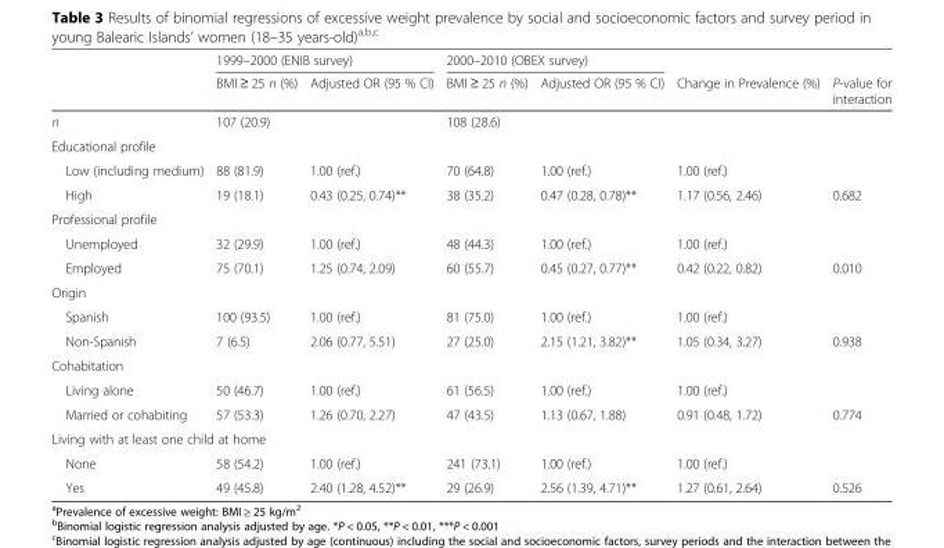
<table><thead><tr><td rowspan="2"></td><td colspan="2">1999–2000 (ENIB survey)</td><td colspan="2">2000–2010 (OBEX survey)</td><td rowspan="2">Change in Prevalence (%)</td><td rowspan="2">P-value for interaction</td></tr><tr><td>BMI ≥ 25 n (%)</td><td>Adjusted OR (95 % CI)</td><td>BMI ≥ 25 n (%)</td><td>Adjusted OR (95 % CI)</td></tr></thead><tbody><tr><td>n</td><td>107 (20.9)</td><td></td><td>108 (28.6)</td><td></td><td></td><td></td></tr><tr><td colspan="7">Educational profile</td></tr><tr><td>Low (including medium)</td><td>88 (81.9)</td><td>1.00 (ref.)</td><td>70 (64.8)</td><td>1.00 (ref.)</td><td>1.00 (ref.)</td><td></td></tr><tr><td>High</td><td>19 (18.1)</td><td>0.43 (0.25, 0.74)**</td><td>38 (35.2)</td><td>0.47 (0.28, 0.78)**</td><td>1.17 (0.56, 2.46)</td><td>0.682</td></tr><tr><td colspan="7">Professional profile</td></tr><tr><td>Unemployed</td><td>32 (29.9)</td><td>1.00 (ref.)</td><td>48 (44.3)</td><td>1.00 (ref.)</td><td>1.00 (ref.)</td><td></td></tr><tr><td>Employed</td><td>75 (70.1)</td><td>1.25 (0.74, 2.09)</td><td>60 (55.7)</td><td>0.45 (0.27, 0.77)**</td><td>0.42 (0.22, 0.82)</td><td>0.010</td></tr><tr><td colspan="7">Origin</td></tr><tr><td>Spanish</td><td>100 (93.5)</td><td>1.00 (ref.)</td><td>81 (75.0)</td><td>1.00 (ref.)</td><td>1.00 (ref.)</td><td></td></tr><tr><td>Non-Spanish</td><td>7 (6.5)</td><td>2.06 (0.77, 5.51)</td><td>27 (25.0)</td><td>2.15 (1.21, 3.82)**</td><td>1.05 (0.34, 3.27)</td><td>0.938</td></tr><tr><td colspan="7">Cohabitation</td></tr><tr><td>Living alone</td><td>50 (46.7)</td><td>1.00 (ref.)</td><td>61 (56.5)</td><td>1.00 (ref.)</td><td>1.00 (ref.)</td><td></td></tr><tr><td>Married or cohabiting</td><td>57 (53.3)</td><td>1.26 (0.70, 2.27)</td><td>47 (43.5)</td><td>1.13 (0.67, 1.88)</td><td>0.91 (0.48, 1.72)</td><td>0.774</td></tr><tr><td colspan="7">Living with at least one child at home</td></tr><tr><td>None</td><td>58 (54.2)</td><td>1.00 (ref.)</td><td>241 (73.1)</td><td>1.00 (ref.)</td><td>1.00 (ref.)</td><td></td></tr><tr><td>Yes</td><td>49 (45.8)</td><td>2.40 (1.28, 4.52)**</td><td>29 (26.9)</td><td>2.56 (1.39, 4.71)**</td><td>1.27 (0.61, 2.64)</td><td>0.526</td></tr></tbody></table>